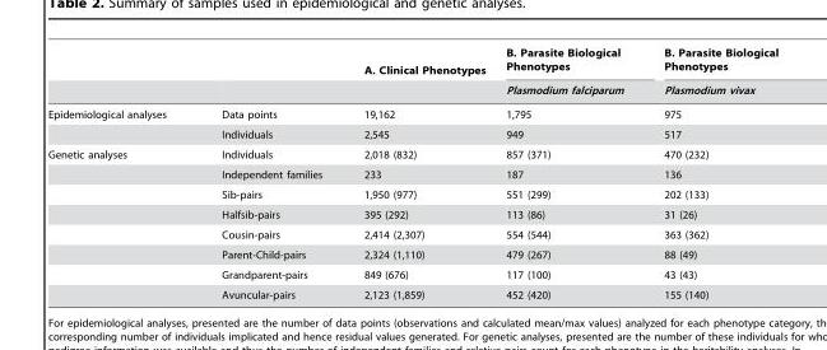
<table><thead><tr><td rowspan="2"></td><td rowspan="2"></td><td rowspan="2">A. Clinical Phenotypes</td><td rowspan="2">B. Parasite Biological Phenotypes Plasmodium falciparum</td><td rowspan="2">B. Parasite Biological Phenotypes Plasmodium vivax</td></tr><tr></tr></thead><tbody><tr><td rowspan="2">Epidemiological analyses</td><td>Data points</td><td>19,162</td><td>1,795</td><td>975</td></tr><tr><td>Individuals</td><td>2,545</td><td>949</td><td>517</td></tr><tr><td rowspan="8">Genetic analyses</td><td>Individuals</td><td>2,018 (832)</td><td>857 (371)</td><td>470 (232)</td></tr><tr><td>Independent families</td><td>233</td><td>187</td><td>136</td></tr><tr><td>Sib-pairs</td><td>1,950 (977)</td><td>551 (299)</td><td>202 (133)</td></tr><tr><td>Halfsib-pairs</td><td>395 (292)</td><td>113 (86)</td><td>31 (26)</td></tr><tr><td>Cousin-pairs</td><td>2,414 (2,307)</td><td>554 (544)</td><td>363 (362)</td></tr><tr><td>Parent-Child-pairs</td><td>2,324 (1,110)</td><td>479 (267)</td><td>88 (49)</td></tr><tr><td>Grandparent-pairs</td><td>849 (676)</td><td>117 (100)</td><td>43 (43)</td></tr><tr><td>Avuncular-pairs</td><td>2,123 (1,859)</td><td>452 (420)</td><td>155 (140)</td></tr></tbody></table>